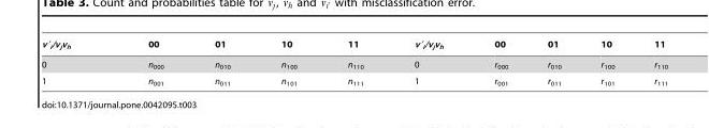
<table><thead><tr><td>v′<sub>i</sub>/v<sub>j</sub>v<sub>h</sub></td><td>00</td><td>01</td><td>10</td><td>11</td><td>v′<sub>i</sub>/v<sub>j</sub>v<sub>h</sub></td><td>00</td><td>01</td><td>10</td><td>11</td></tr></thead><tbody><tr><td>0</td><td>n<sub>000</sub></td><td>n<sub>010</sub></td><td>n<sub>100</sub></td><td>n<sub>110</sub></td><td>0</td><td>r<sub>000</sub></td><td>r<sub>010</sub></td><td>r<sub>100</sub></td><td>r<sub>110</sub></td></tr><tr><td>1</td><td>n<sub>001</sub></td><td>n<sub>011</sub></td><td>n<sub>101</sub></td><td>n<sub>111</sub></td><td>1</td><td>r<sub>001</sub></td><td>r<sub>011</sub></td><td>r<sub>101</sub></td><td>r<sub>111</sub></td></tr></tbody></table>